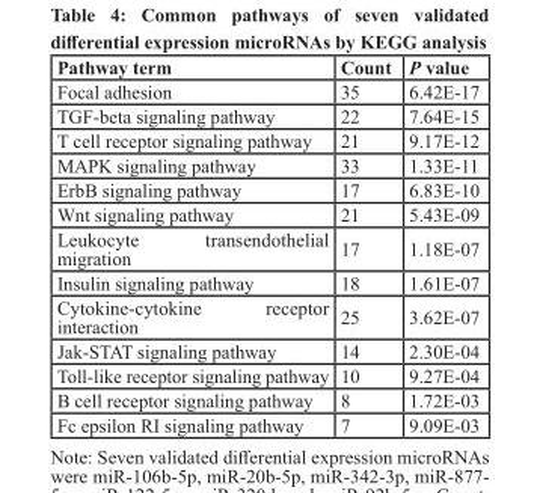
<table><thead><tr><td>Pathway term</td><td>Count</td><td>P value</td></tr></thead><tbody><tr><td>Focal adhesion</td><td>35</td><td>6.42E-17</td></tr><tr><td>TGF-beta signaling pathway</td><td>22</td><td>7.64E-15</td></tr><tr><td>T cell receptor signaling pathway</td><td>21</td><td>9.17E-12</td></tr><tr><td>MAPK signaling pathway</td><td>33</td><td>1.33E-11</td></tr><tr><td>ErbB signaling pathway</td><td>17</td><td>6.83E-10</td></tr><tr><td>Wnt signaling pathway</td><td>21</td><td>5.43E-09</td></tr><tr><td>Leukocyte transendothelial migration</td><td>17</td><td>1.18E-07</td></tr><tr><td>Insulin signaling pathway</td><td>18</td><td>1.61E-07</td></tr><tr><td>Cytokine-cytokine receptor interaction</td><td>25</td><td>3.62E-07</td></tr><tr><td>Jak-STAT signaling pathway</td><td>14</td><td>2.30E-04</td></tr><tr><td>Toll-like receptor signaling pathway</td><td>10</td><td>9.27E-04</td></tr><tr><td>B cell receptor signaling pathway</td><td>8</td><td>1.72E-03</td></tr><tr><td>Fc epsilon RI signaling pathway</td><td>7</td><td>9.09E-03</td></tr></tbody></table>